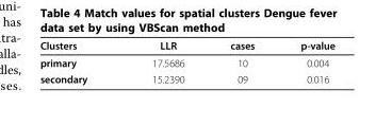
<table><thead><tr><td>Clusters</td><td>LLR</td><td>cases</td><td>p-value</td></tr></thead><tbody><tr><td>primary</td><td>17.5686</td><td>10</td><td>0.004</td></tr><tr><td>secondary</td><td>15.2390</td><td>09</td><td>0.016</td></tr></tbody></table>